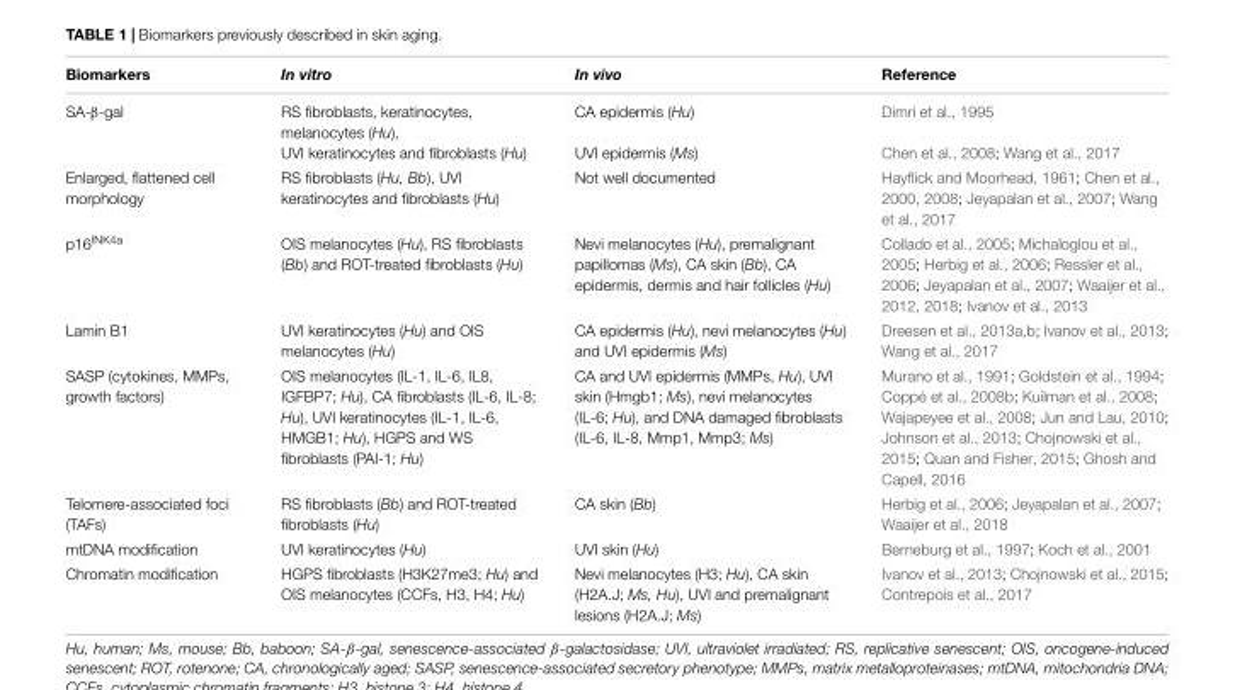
<table><thead><tr><td>Biomarkers</td><td>In vitro</td><td>In vivo</td><td>Reference</td></tr></thead><tbody><tr><td>SA-β-gal</td><td>RS fibroblasts, keratinocytes, melanocytes (Hu), UVI keratinocytes and fibroblasts (Hu)</td><td>CA epidermis (Hu) UVI epidermis (Ms)</td><td>Dimri et al., 1995 Chen et al., 2008; Wang et al., 2017</td></tr><tr><td>Enlarged, flattened cell morphology</td><td>RS fibroblasts (Hu, Bb), UVI keratinocytes and fibroblasts (Hu)</td><td>Not well documented</td><td>Hayflick and Moorhead, 1961; Chen et al., 2000, 2008; Jeyapalan et al., 2007; Wang et al., 2017</td></tr><tr><td>p16<sup>INK4a</sup></td><td>OIS melanocytes (Hu), RS fibroblasts (Bb) and ROT-treated fibroblasts (Hu)</td><td>Nevi melanocytes (Hu), premalignant papillomas (Ms), CA skin (Bb), CA epidermis, dermis and hair follicles (Hu)</td><td>Collado et al., 2005; Michaloglou et al., 2005; Herbig et al., 2006; Ressler et al., 2006; Jeyapalan et al., 2007; Waaijer et al., 2012, 2018; Ivanov et al., 2013</td></tr><tr><td>Lamin B1</td><td>UVI keratinocytes (Hu) and OIS melanocytes (Hu)</td><td>CA epidermis (Hu), nevi melanocytes (Hu) and UVI epidermis (Ms)</td><td>Dreesen et al., 2013a,b; Ivanov et al., 2013; Wang et al., 2017</td></tr><tr><td>SASP (cytokines, MMPs, growth factors)</td><td>OIS melanocytes (IL-1, IL-6, IL8, IGFBP7; Hu), CA fibroblasts (IL-6, IL-8; Hu), UVI keratinocytes (IL-1, IL-6, HMGB1; Hu), HGPS and WS fibroblasts (PAI-1; Hu)</td><td>CA and UVI epidermis (MMPs, Hu), UVI skin (Hmgb1; Ms), nevi melanocytes (IL-6; Hu), and DNA damaged fibroblasts (IL-6, IL-8, Mmp1, Mmp3; Ms)</td><td>Murano et al., 1991; Goldstein et al., 1994; Coppé et al., 2008b; Kuilman et al., 2008; Wajapeyee et al., 2008; Jun and Lau, 2010; Johnson et al., 2013; Chojnowski et al., 2015; Quan and Fisher, 2015; Ghosh and Capell, 2016</td></tr><tr><td>Telomere-associated foci (TAFs)</td><td>RS fibroblasts (Bb) and ROT-treated fibroblasts (Hu)</td><td>CA skin (Bb)</td><td>Herbig et al., 2006; Jeyapalan et al., 2007; Waaijer et al., 2018</td></tr><tr><td>mtDNA modification</td><td>UVI keratinocytes (Hu)</td><td>UVI skin (Hu)</td><td>Berneburg et al., 1997; Koch et al., 2001</td></tr><tr><td>Chromatin modification</td><td>HGPS fibroblasts (H3K27me3; Hu) and OIS melanocytes (CCFs, H3, H4; Hu)</td><td>Nevi melanocytes (H3; Hu), CA skin (H2A.J; Ms, Hu), UVI and premalignant lesions (H2A.J; Ms)</td><td>Ivanov et al., 2013; Chojnowski et al., 2015; Contrepois et al., 2017</td></tr></tbody></table>